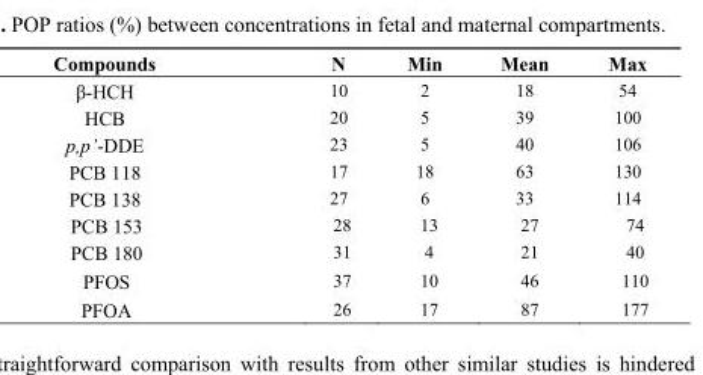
<table><thead><tr><td>Compounds</td><td>N</td><td>Min</td><td>Mean</td><td>Max</td></tr></thead><tbody><tr><td>β-HCH</td><td>10</td><td>2</td><td>18</td><td>54</td></tr><tr><td>HCB</td><td>20</td><td>5</td><td>39</td><td>100</td></tr><tr><td>p,p’-DDE</td><td>23</td><td>5</td><td>40</td><td>106</td></tr><tr><td>PCB 118</td><td>17</td><td>18</td><td>63</td><td>130</td></tr><tr><td>PCB 138</td><td>27</td><td>6</td><td>33</td><td>114</td></tr><tr><td>PCB 153</td><td>28</td><td>13</td><td>27</td><td>74</td></tr><tr><td>PCB 180</td><td>31</td><td>4</td><td>21</td><td>40</td></tr><tr><td>PFOS</td><td>37</td><td>10</td><td>46</td><td>110</td></tr><tr><td>PFOA</td><td>26</td><td>17</td><td>87</td><td>177</td></tr></tbody></table>